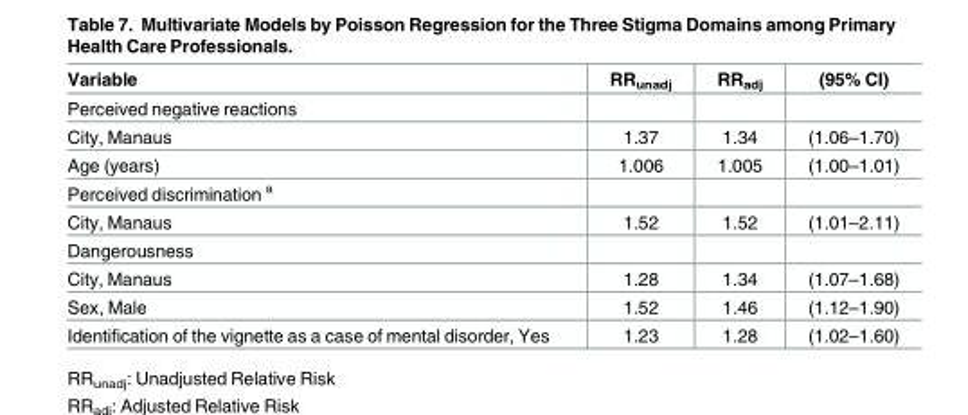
<table><thead><tr><td>Variable</td><td>RR<sub>unadj</sub></td><td>RR<sub>adj</sub></td><td>(95% CI)</td></tr></thead><tbody><tr><td colspan="4">Perceived negative reactions</td></tr><tr><td>City, Manaus</td><td>1.37</td><td>1.34</td><td>(1.06–1.70)</td></tr><tr><td>Age (years)</td><td>1.006</td><td>1.005</td><td>(1.00–1.01)</td></tr><tr><td colspan="4">Perceived discrimination <sup>a</sup></td></tr><tr><td>City, Manaus</td><td>1.52</td><td>1.52</td><td>(1.01–2.11)</td></tr><tr><td colspan="4">Dangerousness</td></tr><tr><td>City, Manaus</td><td>1.28</td><td>1.34</td><td>(1.07–1.68)</td></tr><tr><td>Sex, Male</td><td>1.52</td><td>1.46</td><td>(1.12–1.90)</td></tr><tr><td>Identification of the vignette as a case of mental disorder, Yes</td><td>1.23</td><td>1.28</td><td>(1.02–1.60)</td></tr></tbody></table>